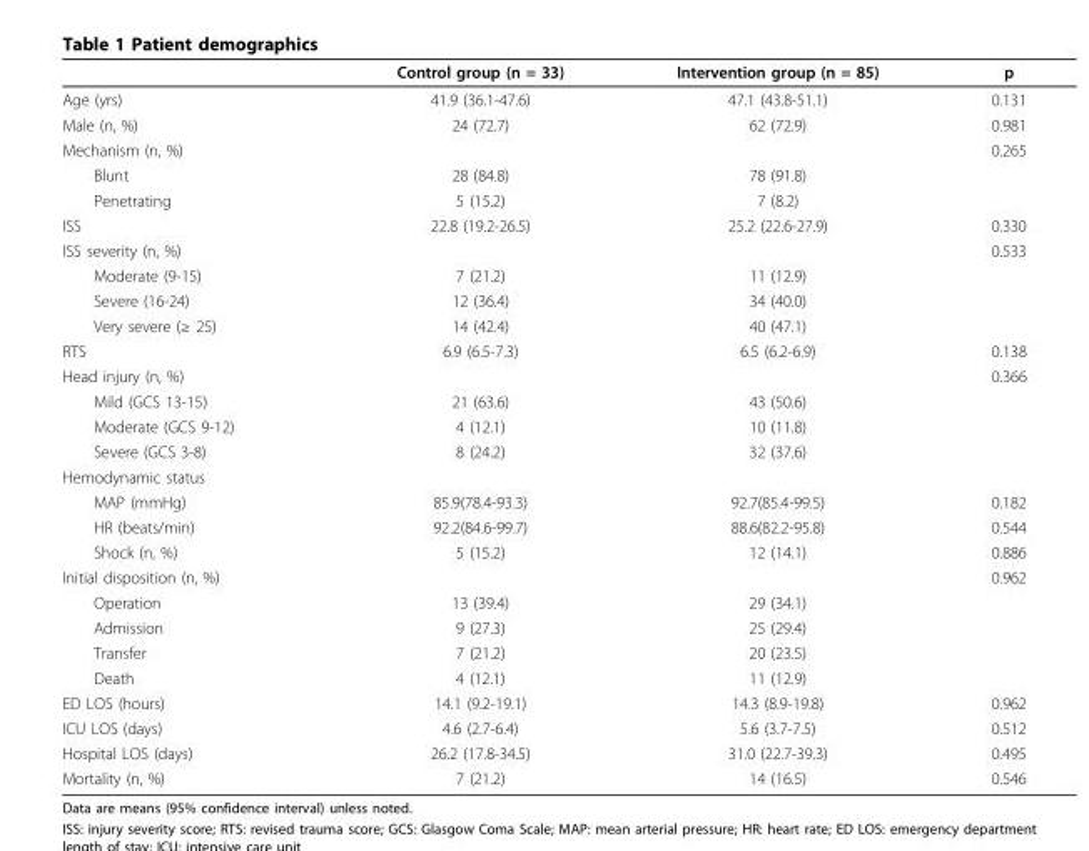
<table><thead><tr><td></td><td>Control group (n = 33)</td><td>Intervention group (n = 85)</td><td>p</td></tr></thead><tbody><tr><td>Age (yrs)</td><td>41.9 (36.1-47.6)</td><td>47.1 (43.8-51.1)</td><td>0.131</td></tr><tr><td>Male (n, %)</td><td>24 (72.7)</td><td>62 (72.9)</td><td>0.981</td></tr><tr><td>Mechanism (n, %)</td><td></td><td></td><td>0.265</td></tr><tr><td>Blunt</td><td>28 (84.8)</td><td>78 (91.8)</td><td></td></tr><tr><td>Penetrating</td><td>5 (15.2)</td><td>7 (8.2)</td><td></td></tr><tr><td>ISS</td><td>22.8 (19.2-26.5)</td><td>25.2 (22.6-27.9)</td><td>0.330</td></tr><tr><td>ISS severity (n, %)</td><td></td><td></td><td>0.533</td></tr><tr><td>Moderate (9-15)</td><td>7 (21.2)</td><td>11 (12.9)</td><td></td></tr><tr><td>Severe (16-24)</td><td>12 (36.4)</td><td>34 (40.0)</td><td></td></tr><tr><td>Very severe (≥ 25)</td><td>14 (42.4)</td><td>40 (47.1)</td><td></td></tr><tr><td>RTS</td><td>6.9 (6.5-7.3)</td><td>6.5 (6.2-6.9)</td><td>0.138</td></tr><tr><td>Head injury (n, %)</td><td></td><td></td><td>0.366</td></tr><tr><td>Mild (GCS 13-15)</td><td>21 (63.6)</td><td>43 (50.6)</td><td></td></tr><tr><td>Moderate (GCS 9-12)</td><td>4 (12.1)</td><td>10 (11.8)</td><td></td></tr><tr><td>Severe (GCS 3-8)</td><td>8 (24.2)</td><td>32 (37.6)</td><td></td></tr><tr><td colspan="4">Hemodynamic status</td></tr><tr><td>MAP (mmHg)</td><td>85.9(78.4-93.3)</td><td>92.7(85.4-99.5)</td><td>0.182</td></tr><tr><td>HR (beats/min)</td><td>92.2(84.6-99.7)</td><td>88.6(82.2-95.8)</td><td>0.544</td></tr><tr><td>Shock (n, %)</td><td>5 (15.2)</td><td>12 (14.1)</td><td>0.886</td></tr><tr><td>Initial disposition (n, %)</td><td></td><td></td><td>0.962</td></tr><tr><td>Operation</td><td>13 (39.4)</td><td>29 (34.1)</td><td></td></tr><tr><td>Admission</td><td>9 (27.3)</td><td>25 (29.4)</td><td></td></tr><tr><td>Transfer</td><td>7 (21.2)</td><td>20 (23.5)</td><td></td></tr><tr><td>Death</td><td>4 (12.1)</td><td>11 (12.9)</td><td></td></tr><tr><td>ED LOS (hours)</td><td>14.1 (9.2-19.1)</td><td>14.3 (8.9-19.8)</td><td>0.962</td></tr><tr><td>ICU LOS (days)</td><td>4.6 (2.7-6.4)</td><td>5.6 (3.7-7.5)</td><td>0.512</td></tr><tr><td>Hospital LOS (days)</td><td>26.2 (17.8-34.5)</td><td>31.0 (22.7-39.3)</td><td>0.495</td></tr><tr><td>Mortality (n, %)</td><td>7 (21.2)</td><td>14 (16.5)</td><td>0.546</td></tr></tbody></table>